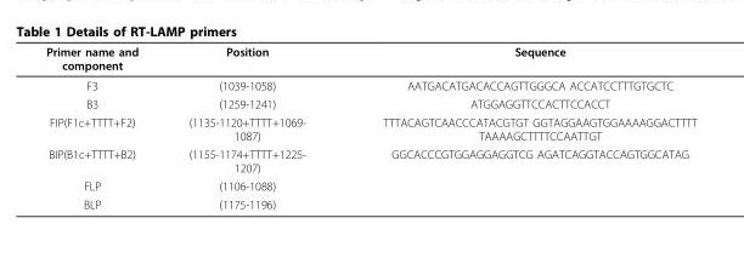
<table><thead><tr><td>Primer name and component</td><td>Position</td><td>Sequence</td></tr></thead><tbody><tr><td>F3</td><td>(1039-1058)</td><td>AATGACATGACACCAGTTGGGCA ACCATCCTTTGTGCTC</td></tr><tr><td>B3</td><td>(1259-1241)</td><td>ATGGAGGTTCCACTTCCACCT</td></tr><tr><td>FIP(F1c+TTTT+F2)</td><td>(1135-1120+TTTT+1069- 1087)</td><td>TTTACAGTCAACCCATACGTGT GGTAGGAAGTGGAAAAGGACTTTT TAAAAGCTTTTCCAATTGT</td></tr><tr><td>BIP(B1c+TTTT+B2)</td><td>(1155-1174+TTTT+1225- 1207)</td><td>GGCACCCGTGGAGGAGGTCG AGATCAGGTACCAGTGGCATAG</td></tr><tr><td>FLP</td><td>(1106-1088)</td><td></td></tr><tr><td>BLP</td><td>(1175-1196)</td><td></td></tr></tbody></table>